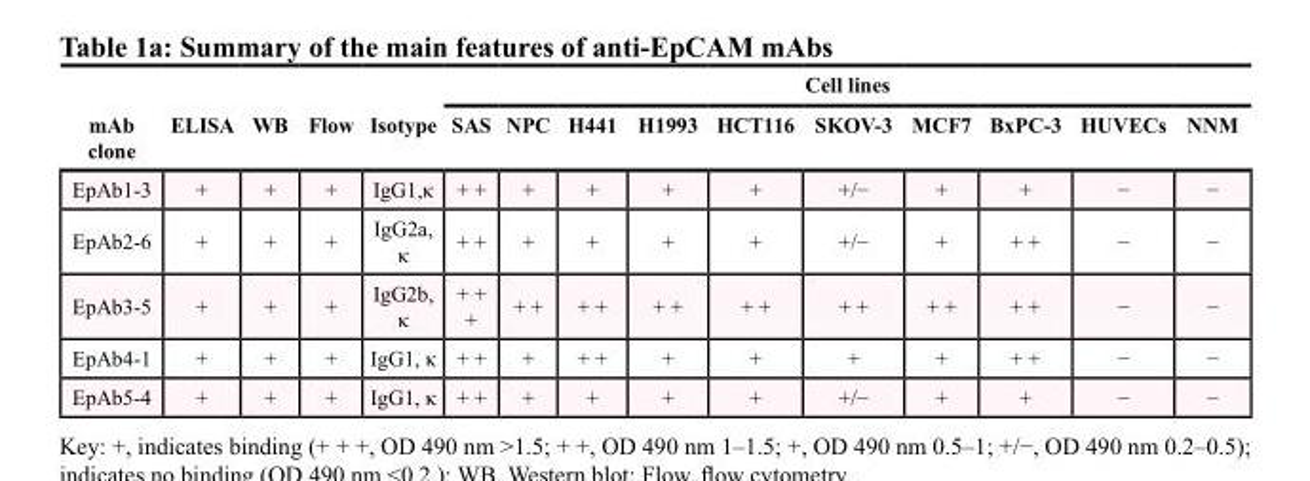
<table><thead><tr><td rowspan="2">mAb clone</td><td rowspan="2">ELISA</td><td rowspan="2">WB</td><td rowspan="2">Flow</td><td rowspan="2">Isotype</td><td colspan="10">Cell lines</td></tr><tr><td>SAS</td><td>NPC</td><td>H441</td><td>H1993</td><td>HCT116</td><td>SKOV-3</td><td>MCF7</td><td>BxPC-3</td><td>HUVECs</td><td>NNM</td></tr></thead><tbody><tr><td>EpAb1-3</td><td>+</td><td>+</td><td>+</td><td>IgG1,κ</td><td>+ +</td><td>+</td><td>+</td><td>+</td><td>+</td><td>+/−</td><td>+</td><td>+</td><td>−</td><td>−</td></tr><tr><td>EpAb2-6</td><td>+</td><td>+</td><td>+</td><td>IgG2a, κ</td><td>+ +</td><td>+</td><td>+</td><td>+</td><td>+</td><td>+/−</td><td>+</td><td>+ +</td><td>−</td><td>−</td></tr><tr><td>EpAb3-5</td><td>+</td><td>+</td><td>+</td><td>IgG2b, κ</td><td>+ + +</td><td>+ +</td><td>+ +</td><td>+ +</td><td>+ +</td><td>+ +</td><td>+ +</td><td>+ +</td><td>−</td><td>−</td></tr><tr><td>EpAb4-1</td><td>+</td><td>+</td><td>+</td><td>IgG1, κ</td><td>+ +</td><td>+</td><td>+ +</td><td>+</td><td>+</td><td>+</td><td>+</td><td>+ +</td><td>−</td><td>−</td></tr><tr><td>EpAb5-4</td><td>+</td><td>+</td><td>+</td><td>IgG1, κ</td><td>+ +</td><td>+</td><td>+</td><td>+</td><td>+</td><td>+/−</td><td>+</td><td>+</td><td>−</td><td>−</td></tr></tbody></table>